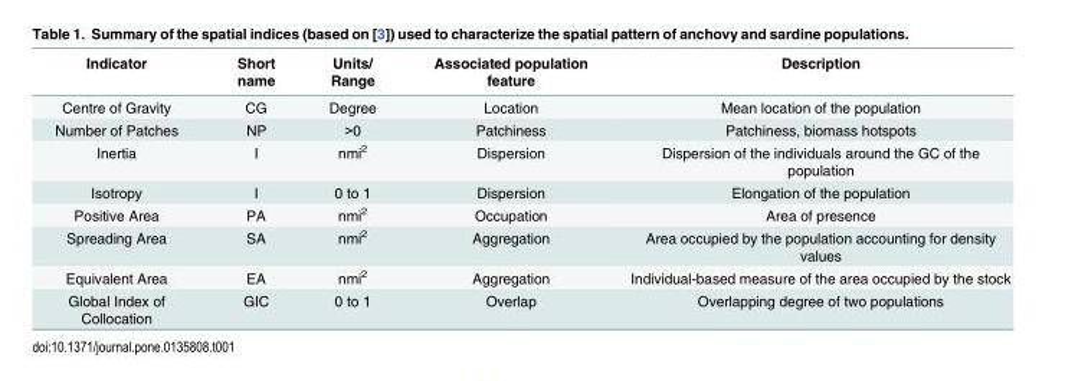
<table><thead><tr><td>Indicator</td><td>Short name</td><td>Units/ Range</td><td>Associated population feature</td><td>Description</td></tr></thead><tbody><tr><td>Centre of Gravity</td><td>CG</td><td>Degree</td><td>Location</td><td>Mean location of the population</td></tr><tr><td>Number of Patches</td><td>NP</td><td>&gt;0</td><td>Patchiness</td><td>Patchiness, biomass hotspots</td></tr><tr><td>Inertia</td><td>I</td><td>nmi<sup>2</sup></td><td>Dispersion</td><td>Dispersion of the individuals around the GC of the population</td></tr><tr><td>Isotropy</td><td>I</td><td>0 to 1</td><td>Dispersion</td><td>Elongation of the population</td></tr><tr><td>Positive Area</td><td>PA</td><td>nmi<sup>2</sup></td><td>Occupation</td><td>Area of presence</td></tr><tr><td>Spreading Area</td><td>SA</td><td>nmi<sup>2</sup></td><td>Aggregation</td><td>Area occupied by the population accounting for density values</td></tr><tr><td>Equivalent Area</td><td>EA</td><td>nmi<sup>2</sup></td><td>Aggregation</td><td>Individual-based measure of the area occupied by the stock</td></tr><tr><td>Global Index of Collocation</td><td>GIC</td><td>0 to 1</td><td>Overlap</td><td>Overlapping degree of two populations</td></tr></tbody></table>